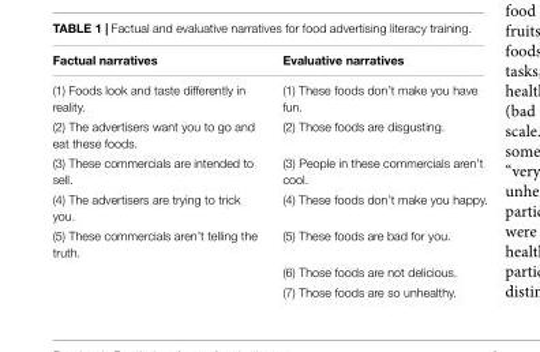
<table><thead><tr><td>Factual narratives</td><td>Evaluative narratives</td></tr></thead><tbody><tr><td>(1) Foods look and taste differently in reality.</td><td>(1) These foods don’t make you have fun.</td></tr><tr><td>(2) The advertisers want you to go and eat these foods.</td><td>(2) Those foods are disgusting.</td></tr><tr><td>(3) These commercials are intended to sell.</td><td>(3) People in these commercials aren’t cool.</td></tr><tr><td>(4) The advertisers are trying to trick you.</td><td>(4) These foods don’t make you happy.</td></tr><tr><td rowspan="3">(5) These commercials aren’t telling the truth.</td><td>(5) These foods are bad for you.</td></tr><tr><td>(6) Those foods are not delicious.</td></tr><tr><td>(7) Those foods are so unhealthy.</td></tr></tbody></table>